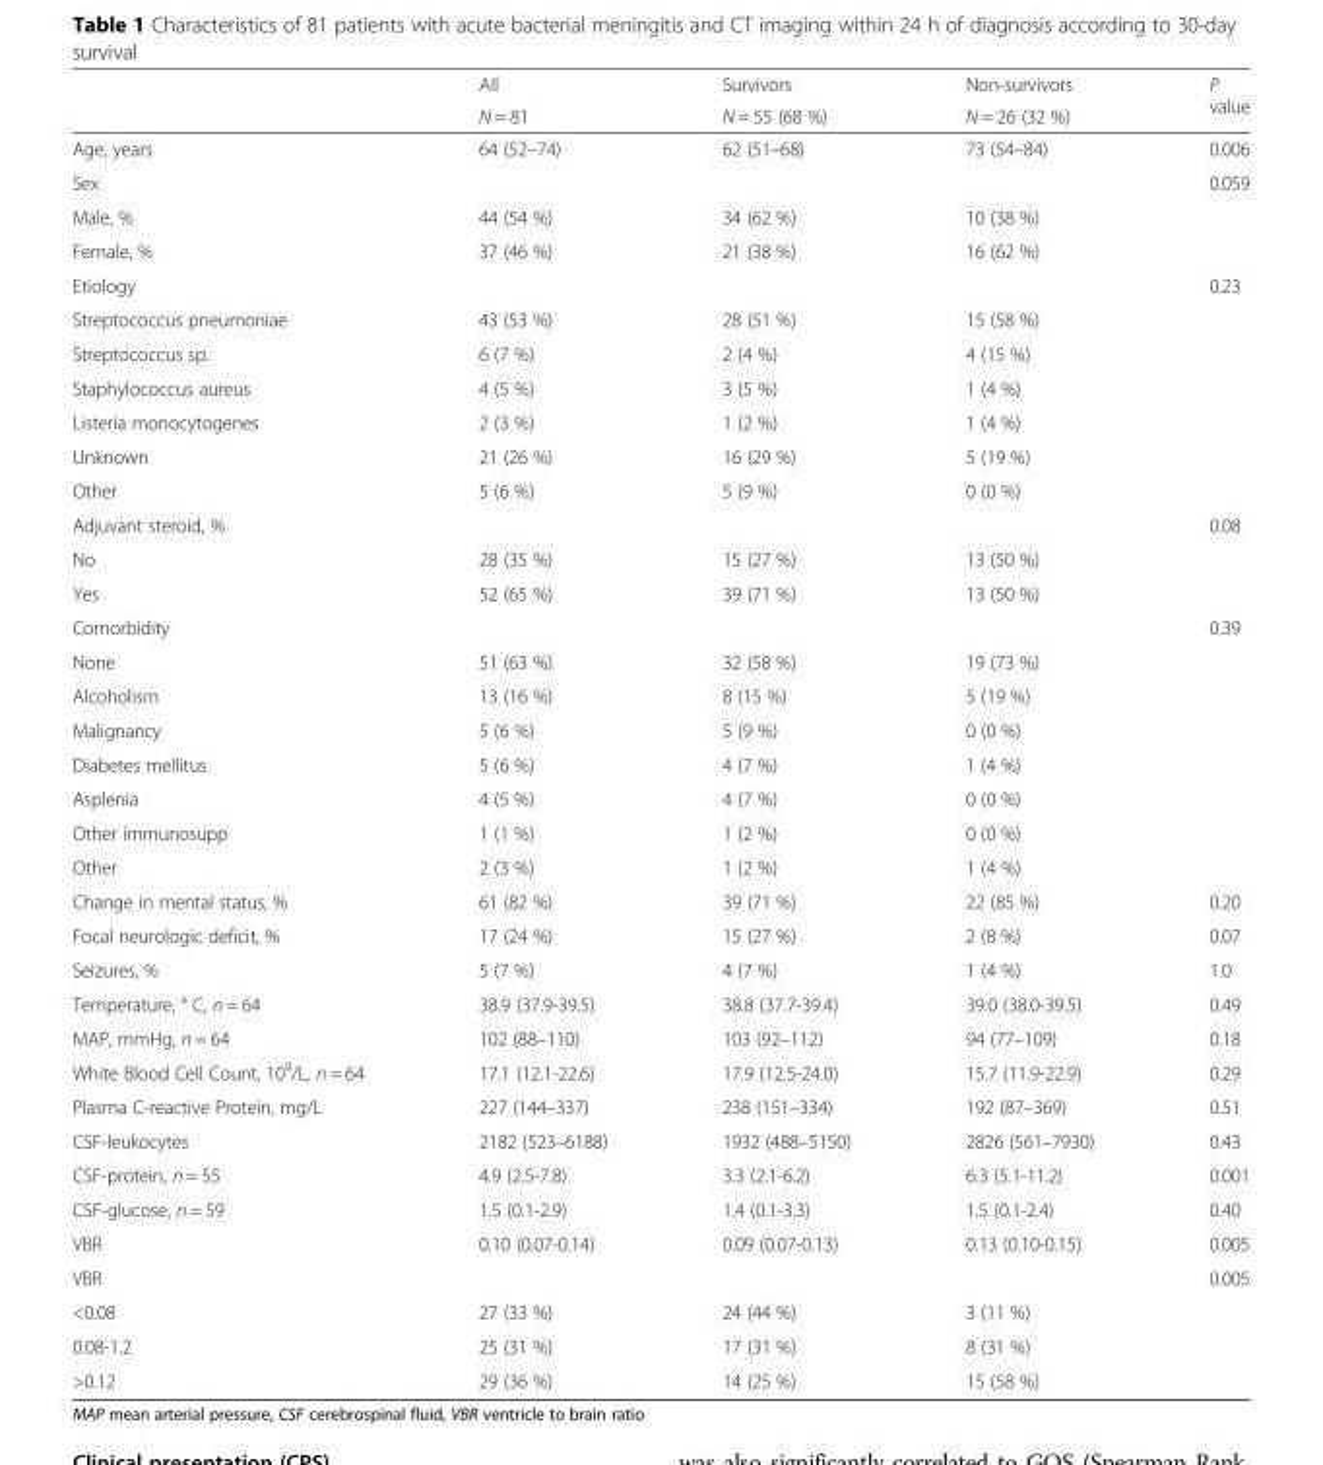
<table><thead><tr><td rowspan="2"></td><td rowspan="2">All N = 81</td><td rowspan="2">Survivors N = 55 (68 %)</td><td rowspan="2">Non-survivors N = 26 (32 %)</td><td rowspan="2">P value</td></tr><tr></tr></thead><tbody><tr><td>Age, years</td><td>64 (52–74)</td><td>62 (51–68)</td><td>73 (54–84)</td><td>0.006</td></tr><tr><td>Sex</td><td></td><td></td><td></td><td>0.059</td></tr><tr><td>Male, %</td><td>44 (54 %)</td><td>34 (62 %)</td><td>10 (38 %)</td><td></td></tr><tr><td>Female, %</td><td>37 (46 %)</td><td>21 (38 %)</td><td>16 (62 %)</td><td></td></tr><tr><td>Etiology</td><td></td><td></td><td></td><td>0.23</td></tr><tr><td>Streptococcus pneumoniae</td><td>43 (53 %)</td><td>28 (51 %)</td><td>15 (58 %)</td><td></td></tr><tr><td>Streptococcus sp.</td><td>6 (7 %)</td><td>2 (4 %)</td><td>4 (15 %)</td><td></td></tr><tr><td>Staphylococcus aureus</td><td>4 (5 %)</td><td>3 (5 %)</td><td>1 (4 %)</td><td></td></tr><tr><td>Listeria monocytogenes</td><td>2 (3 %)</td><td>1 (2 %)</td><td>1 (4 %)</td><td></td></tr><tr><td>Unknown</td><td>21 (26 %)</td><td>16 (29 %)</td><td>5 (19 %)</td><td></td></tr><tr><td>Other</td><td>5 (6 %)</td><td>5 (9 %)</td><td>0 (0 %)</td><td></td></tr><tr><td>Adjuvant steroid, %</td><td></td><td></td><td></td><td>0.08</td></tr><tr><td>No</td><td>28 (35 %)</td><td>15 (27 %)</td><td>13 (50 %)</td><td></td></tr><tr><td>Yes</td><td>52 (65 %)</td><td>39 (71 %)</td><td>13 (50 %)</td><td></td></tr><tr><td>Comorbidity</td><td></td><td></td><td></td><td>0.39</td></tr><tr><td>None</td><td>51 (63 %)</td><td>32 (58 %)</td><td>19 (73 %)</td><td></td></tr><tr><td>Alcoholism</td><td>13 (16 %)</td><td>8 (15 %)</td><td>5 (19 %)</td><td></td></tr><tr><td>Malignancy</td><td>5 (6 %)</td><td>5 (9 %)</td><td>0 (0 %)</td><td></td></tr><tr><td>Diabetes mellitus</td><td>5 (6 %)</td><td>4 (7 %)</td><td>1 (4 %)</td><td></td></tr><tr><td>Asplenia</td><td>4 (5 %)</td><td>4 (7 %)</td><td>0 (0 %)</td><td></td></tr><tr><td>Other immunosupp</td><td>1 (1 %)</td><td>1 (2 %)</td><td>0 (0 %)</td><td></td></tr><tr><td>Other</td><td>2 (3 %)</td><td>1 (2 %)</td><td>1 (4 %)</td><td></td></tr><tr><td>Change in mental status, %</td><td>61 (82 %)</td><td>39 (71 %)</td><td>22 (85 %)</td><td>0.20</td></tr><tr><td>Focal neurologic deficit, %</td><td>17 (24 %)</td><td>15 (27 %)</td><td>2 (8 %)</td><td>0.07</td></tr><tr><td>Seizures, %</td><td>5 (7 %)</td><td>4 (7 %)</td><td>1 (4 %)</td><td>1.0</td></tr><tr><td>Temperature, ° C, n = 64</td><td>38.9 (37.9-39.5)</td><td>38.8 (37.7-39.4)</td><td>39.0 (38.0-39.5)</td><td>0.49</td></tr><tr><td>MAP, mmHg, n = 64</td><td>102 (88–110)</td><td>103 (92–112)</td><td>94 (77–109)</td><td>0.18</td></tr><tr><td>White Blood Cell Count, 10<sup>9</sup>/L, n = 64</td><td>17.1 (12.1-22.6)</td><td>17.9 (12.5-24.0)</td><td>15.7 (11.9-22.9)</td><td>0.29</td></tr><tr><td>Plasma C-reactive Protein, mg/L</td><td>227 (144–337)</td><td>238 (151–334)</td><td>192 (87–369)</td><td>0.51</td></tr><tr><td>CSF-leukocytes</td><td>2182 (523–6188)</td><td>1932 (488–5150)</td><td>2826 (561–7930)</td><td>0.43</td></tr><tr><td>CSF-protein, n = 55</td><td>4.9 (2.5-7.8)</td><td>3.3 (2.1-6.2)</td><td>6.3 (5.1-11.2)</td><td>0.001</td></tr><tr><td>CSF-glucose, n = 59</td><td>1.5 (0.1-2.9)</td><td>1.4 (0.1-3.3)</td><td>1.5 (0.1-2.4)</td><td>0.40</td></tr><tr><td>VBR</td><td>0.10 (0.07-0.14)</td><td>0.09 (0.07-0.13)</td><td>0.13 (0.10-0.15)</td><td>0.005</td></tr><tr><td>VBR</td><td></td><td></td><td></td><td>0.005</td></tr><tr><td>&lt;0.08</td><td>27 (33 %)</td><td>24 (44 %)</td><td>3 (11 %)</td><td></td></tr><tr><td>0.08-1.2</td><td>25 (31 %)</td><td>17 (31 %)</td><td>8 (31 %)</td><td></td></tr><tr><td>&gt;0.12</td><td>29 (36 %)</td><td>14 (25 %)</td><td>15 (58 %)</td><td></td></tr></tbody></table>